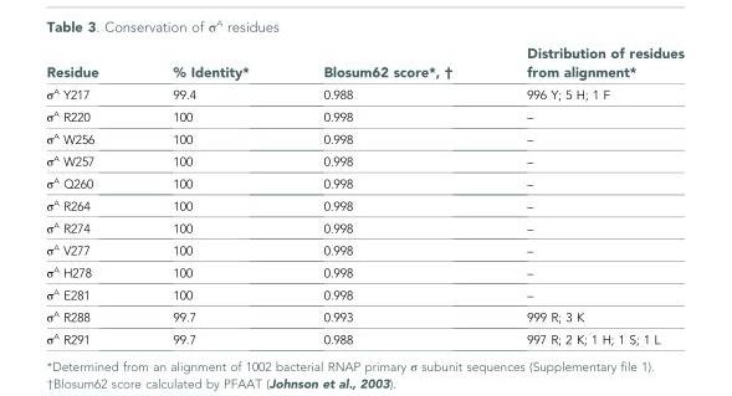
<table><thead><tr><td>Residue</td><td>% Identity*</td><td>Blosum62 score*, †</td><td>Distribution of residues from alignment*</td></tr></thead><tbody><tr><td>σ<sup>A</sup> Y217</td><td>99.4</td><td>0.988</td><td>996 Y; 5 H; 1 F</td></tr><tr><td>σ<sup>A</sup> R220</td><td>100</td><td>0.998</td><td>–</td></tr><tr><td>σ<sup>A</sup> W256</td><td>100</td><td>0.998</td><td>–</td></tr><tr><td>σ<sup>A</sup> W257</td><td>100</td><td>0.998</td><td>–</td></tr><tr><td>σ<sup>A</sup> Q260</td><td>100</td><td>0.998</td><td>–</td></tr><tr><td>σ<sup>A</sup> R264</td><td>100</td><td>0.998</td><td>–</td></tr><tr><td>σ<sup>A</sup> R274</td><td>100</td><td>0.998</td><td>–</td></tr><tr><td>σ<sup>A</sup> V277</td><td>100</td><td>0.998</td><td>–</td></tr><tr><td>σ<sup>A</sup> H278</td><td>100</td><td>0.998</td><td>–</td></tr><tr><td>σ<sup>A</sup> E281</td><td>100</td><td>0.998</td><td>–</td></tr><tr><td>σ<sup>A</sup> R288</td><td>99.7</td><td>0.993</td><td>999 R; 3 K</td></tr><tr><td>σ<sup>A</sup> R291</td><td>99.7</td><td>0.988</td><td>997 R; 2 K; 1 H; 1 S; 1 L</td></tr></tbody></table>